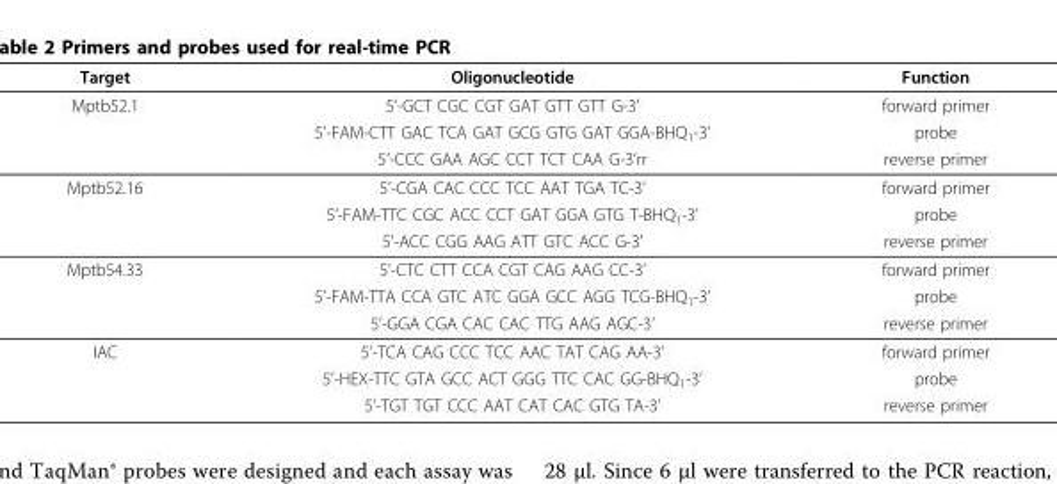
<table><thead><tr><td>Target</td><td>Oligonucleotide</td><td>Function</td></tr></thead><tbody><tr><td rowspan="3">Mptb52.1</td><td>5’-GCT CGC CGT GAT GTT GTT G-3’</td><td>forward primer</td></tr><tr><td>5’-FAM-CTT GAC TCA GAT GCG GTG GAT GGA-BHQ<sub>1</sub>-3’</td><td>probe</td></tr><tr><td>5’-CCC GAA AGC CCT TCT CAA G-3’rr</td><td>reverse primer</td></tr><tr><td rowspan="3">Mptb52.16</td><td>5’-CGA CAC CCC TCC AAT TGA TC-3’</td><td>forward primer</td></tr><tr><td>5’-FAM-TTC CGC ACC CCT GAT GGA GTG T-BHQ<sub>1</sub>-3’</td><td>probe</td></tr><tr><td>5’-ACC CGG AAG ATT GTC ACC G-3’</td><td>reverse primer</td></tr><tr><td rowspan="3">Mptb54.33</td><td>5’-CTC CTT CCA CGT CAG AAG CC-3’</td><td>forward primer</td></tr><tr><td>5’-FAM-TTA CCA GTC ATC GGA GCC AGG TCG-BHQ<sub>1</sub>-3’</td><td>probe</td></tr><tr><td>5’-GGA CGA CAC CAC TTG AAG AGC-3’</td><td>reverse primer</td></tr><tr><td rowspan="3">IAC</td><td>5’-TCA CAG CCC TCC AAC TAT CAG AA-3’</td><td>forward primer</td></tr><tr><td>5’-HEX-TTC GTA GCC ACT GGG TTC CAC GG-BHQ<sub>1</sub>-3’</td><td>probe</td></tr><tr><td>5’-TGT TGT CCC AAT CAT CAC GTG TA-3’</td><td>reverse primer</td></tr></tbody></table>